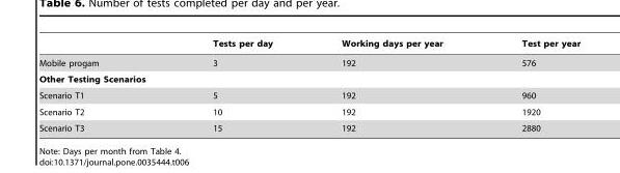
<table><thead><tr><td></td><td>Tests per day</td><td>Working days per year</td><td>Test per year</td></tr></thead><tbody><tr><td>Mobile progam</td><td>3</td><td>192</td><td>576</td></tr><tr><td colspan="4">Other Testing Scenarios</td></tr><tr><td>Scenario T1</td><td>5</td><td>192</td><td>960</td></tr><tr><td>Scenario T2</td><td>10</td><td>192</td><td>1920</td></tr><tr><td>Scenario T3</td><td>15</td><td>192</td><td>2880</td></tr></tbody></table>